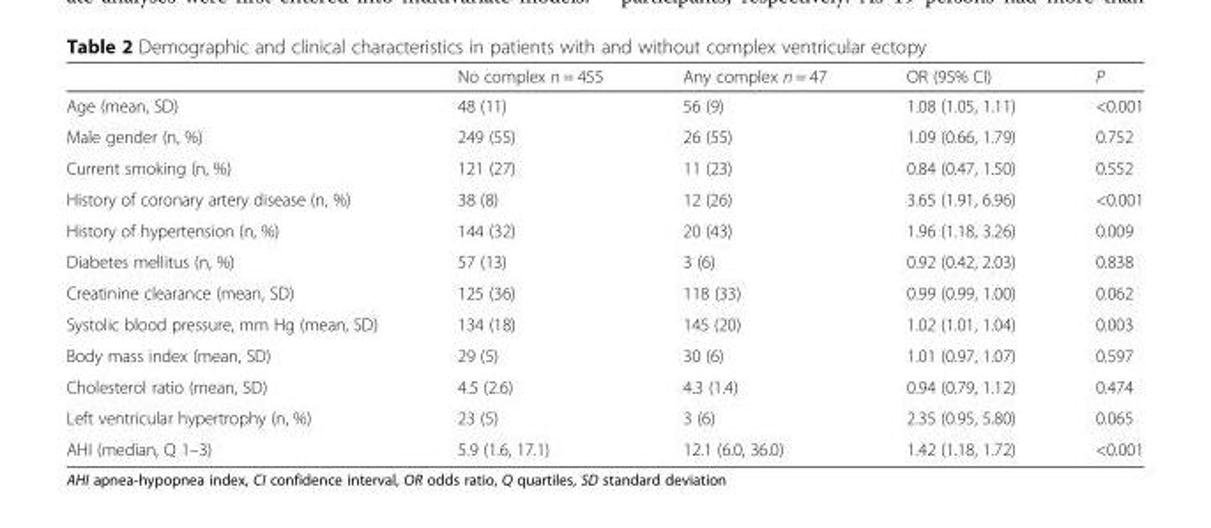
<table><thead><tr><td></td><td>No complex n = 455</td><td>Any complex n = 47</td><td>OR (95% CI)</td><td>P</td></tr></thead><tbody><tr><td>Age (mean, SD)</td><td>48 (11)</td><td>56 (9)</td><td>1.08 (1.05, 1.11)</td><td>&lt;0.001</td></tr><tr><td>Male gender (n, %)</td><td>249 (55)</td><td>26 (55)</td><td>1.09 (0.66, 1.79)</td><td>0.752</td></tr><tr><td>Current smoking (n, %)</td><td>121 (27)</td><td>11 (23)</td><td>0.84 (0.47, 1.50)</td><td>0.552</td></tr><tr><td>History of coronary artery disease (n, %)</td><td>38 (8)</td><td>12 (26)</td><td>3.65 (1.91, 6.96)</td><td>&lt;0.001</td></tr><tr><td>History of hypertension (n, %)</td><td>144 (32)</td><td>20 (43)</td><td>1.96 (1.18, 3.26)</td><td>0.009</td></tr><tr><td>Diabetes mellitus (n, %)</td><td>57 (13)</td><td>3 (6)</td><td>0.92 (0.42, 2.03)</td><td>0.838</td></tr><tr><td>Creatinine clearance (mean, SD)</td><td>125 (36)</td><td>118 (33)</td><td>0.99 (0.99, 1.00)</td><td>0.062</td></tr><tr><td>Systolic blood pressure, mm Hg (mean, SD)</td><td>134 (18)</td><td>145 (20)</td><td>1.02 (1.01, 1.04)</td><td>0.003</td></tr><tr><td>Body mass index (mean, SD)</td><td>29 (5)</td><td>30 (6)</td><td>1.01 (0.97, 1.07)</td><td>0.597</td></tr><tr><td>Cholesterol ratio (mean, SD)</td><td>4.5 (2.6)</td><td>4.3 (1.4)</td><td>0.94 (0.79, 1.12)</td><td>0.474</td></tr><tr><td>Left ventricular hypertrophy (n, %)</td><td>23 (5)</td><td>3 (6)</td><td>2.35 (0.95, 5.80)</td><td>0.065</td></tr><tr><td>AHI (median, Q 1–3)</td><td>5.9 (1.6, 17.1)</td><td>12.1 (6.0, 36.0)</td><td>1.42 (1.18, 1.72)</td><td>&lt;0.001</td></tr></tbody></table>